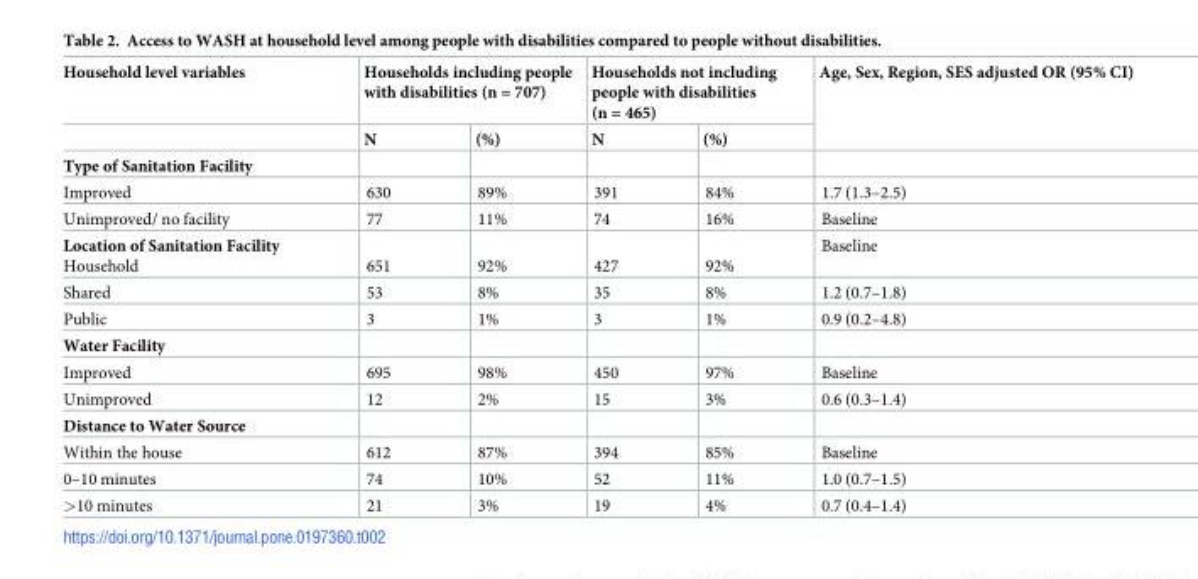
<table><thead><tr><td rowspan="2">Household level variables</td><td colspan="2">Households including people with disabilities (n = 707)</td><td colspan="2">Households not including people with disabilities (n = 465)</td><td rowspan="2">Age, Sex, Region, SES adjusted OR (95% CI)</td></tr><tr><td>N</td><td>(%)</td><td>N</td><td>(%)</td></tr></thead><tbody><tr><td colspan="6">Type of Sanitation Facility</td></tr><tr><td>Improved</td><td>630</td><td>89%</td><td>391</td><td>84%</td><td>1.7 (1.3–2.5)</td></tr><tr><td>Unimproved/ no facility</td><td>77</td><td>11%</td><td>74</td><td>16%</td><td>Baseline</td></tr><tr><td>Location of Sanitation Facility Household</td><td>651</td><td>92%</td><td>427</td><td>92%</td><td>Baseline</td></tr><tr><td>Shared</td><td>53</td><td>8%</td><td>35</td><td>8%</td><td>1.2 (0.7–1.8)</td></tr><tr><td>Public</td><td>3</td><td>1%</td><td>3</td><td>1%</td><td>0.9 (0.2–4.8)</td></tr><tr><td colspan="6">Water Facility</td></tr><tr><td>Improved</td><td>695</td><td>98%</td><td>450</td><td>97%</td><td>Baseline</td></tr><tr><td>Unimproved</td><td>12</td><td>2%</td><td>15</td><td>3%</td><td>0.6 (0.3–1.4)</td></tr><tr><td colspan="6">Distance to Water Source</td></tr><tr><td>Within the house</td><td>612</td><td>87%</td><td>394</td><td>85%</td><td>Baseline</td></tr><tr><td>0–10 minutes</td><td>74</td><td>10%</td><td>52</td><td>11%</td><td>1.0 (0.7–1.5)</td></tr><tr><td>&gt;10 minutes</td><td>21</td><td>3%</td><td>19</td><td>4%</td><td>0.7 (0.4–1.4)</td></tr></tbody></table>